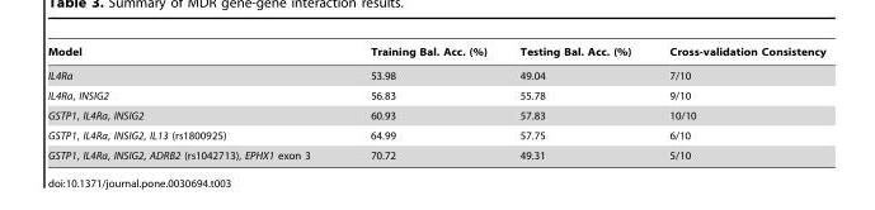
<table><thead><tr><td>Model</td><td>Training Bal. Acc. (%)</td><td>Testing Bal. Acc. (%)</td><td>Cross-validation Consistency</td></tr></thead><tbody><tr><td>IL4Ra</td><td>53.98</td><td>49.04</td><td>7/10</td></tr><tr><td>IL4Ra, INSIG2</td><td>56.83</td><td>55.78</td><td>9/10</td></tr><tr><td>GSTP1, IL4Ra, INSIG2</td><td>60.93</td><td>57.83</td><td>10/10</td></tr><tr><td>GSTP1, IL4Ra, INSIG2, IL13 (rs1800925)</td><td>64.99</td><td>57.75</td><td>6/10</td></tr><tr><td>GSTP1, IL4Ra, INSIG2, ADRB2 (rs1042713), EPHX1 exon 3</td><td>70.72</td><td>49.31</td><td>5/10</td></tr></tbody></table>